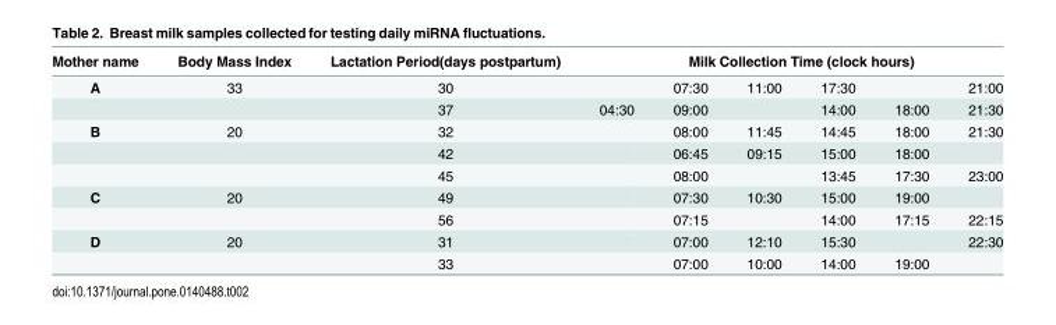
<table><thead><tr><td rowspan="2">Mother name A</td><td rowspan="2">Body Mass Index 33</td><td rowspan="2">Lactation Period(days postpartum) 30</td><td colspan="6">Milk Collection Time (clock hours)</td></tr><tr><td></td><td>07:30</td><td>11:00</td><td>17:30</td><td></td><td>21:00</td></tr></thead><tbody><tr><td></td><td></td><td>37</td><td>04:30</td><td>09:00</td><td></td><td>14:00</td><td>18:00</td><td>21:30</td></tr><tr><td rowspan="3">B</td><td>20</td><td>32</td><td></td><td>08:00</td><td>11:45</td><td>14:45</td><td>18:00</td><td>21:30</td></tr><tr><td></td><td>42</td><td></td><td>06:45</td><td>09:15</td><td>15:00</td><td>18:00</td><td></td></tr><tr><td></td><td>45</td><td></td><td>08:00</td><td></td><td>13:45</td><td>17:30</td><td>23:00</td></tr><tr><td rowspan="2">C</td><td>20</td><td>49</td><td></td><td>07:30</td><td>10:30</td><td>15:00</td><td>19:00</td><td></td></tr><tr><td></td><td>56</td><td></td><td>07:15</td><td></td><td>14:00</td><td>17:15</td><td>22:15</td></tr><tr><td rowspan="2">D</td><td>20</td><td>31</td><td></td><td>07:00</td><td>12:10</td><td>15:30</td><td></td><td>22:30</td></tr><tr><td></td><td>33</td><td></td><td>07:00</td><td>10:00</td><td>14:00</td><td>19:00</td><td></td></tr></tbody></table>